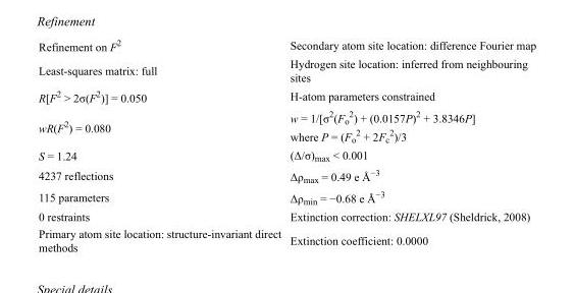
<table><tbody><tr><td>Refinement on F<sup>2</sup></td><td>Secondary atom site location: difference Fourier map</td></tr><tr><td>Least-squares matrix: full</td><td>Hydrogen site location: inferred from neighbouring sites</td></tr><tr><td>R[F<sup>2</sup> &gt; 2σ(F<sup>2</sup>)] = 0.050</td><td>H-atom parameters constrained</td></tr><tr><td>wR(F<sup>2</sup>) = 0.080</td><td>w = 1/[σ<sup>2</sup>(F<sub>o</sub> <sup>2</sup>) + (0.0157P)<sup>2</sup> + 3.8346P] where P = (F<sub>o</sub> <sup>2</sup> + 2F<sub>c</sub> <sup>2</sup>)/3</td></tr><tr><td>S = 1.24</td><td>(Δ/σ)<sub>max</sub> &lt; 0.001</td></tr><tr><td>4237 reflections</td><td>Δρ<sub>max</sub> = 0.49 e Å<sup>−3</sup></td></tr><tr><td>115 parameters</td><td>Δρ<sub>min</sub> = −0.68 e Å<sup>−3</sup></td></tr><tr><td>0 restraints</td><td>Extinction correction: SHELXL97 (Sheldrick, 2008)</td></tr><tr><td>Primary atom site location: structure-invariant direct methods</td><td>Extinction coefficient: 0.0000</td></tr></tbody></table>